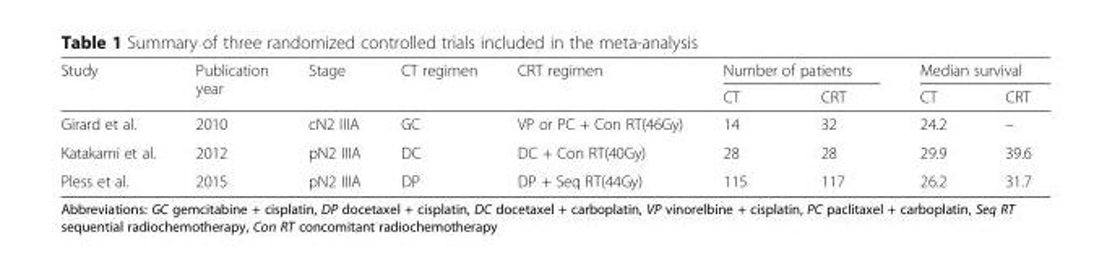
<table><thead><tr><td rowspan="2">Study</td><td rowspan="2">Publication year</td><td rowspan="2">Stage</td><td rowspan="2">CT regimen</td><td rowspan="2">CRT regimen</td><td colspan="2">Number of patients</td><td colspan="2">Median survival</td></tr><tr><td>CT</td><td>CRT</td><td>CT</td><td>CRT</td></tr></thead><tbody><tr><td>Girard et al.</td><td>2010</td><td>cN2 IIIA</td><td>GC</td><td>VP or PC + Con RT(46Gy)</td><td>14</td><td>32</td><td>24.2</td><td>–</td></tr><tr><td>Katakami et al.</td><td>2012</td><td>pN2 IIIA</td><td>DC</td><td>DC + Con RT(40Gy)</td><td>28</td><td>28</td><td>29.9</td><td>39.6</td></tr><tr><td>Pless et al.</td><td>2015</td><td>pN2 IIIA</td><td>DP</td><td>DP + Seq RT(44Gy)</td><td>115</td><td>117</td><td>26.2</td><td>31.7</td></tr></tbody></table>